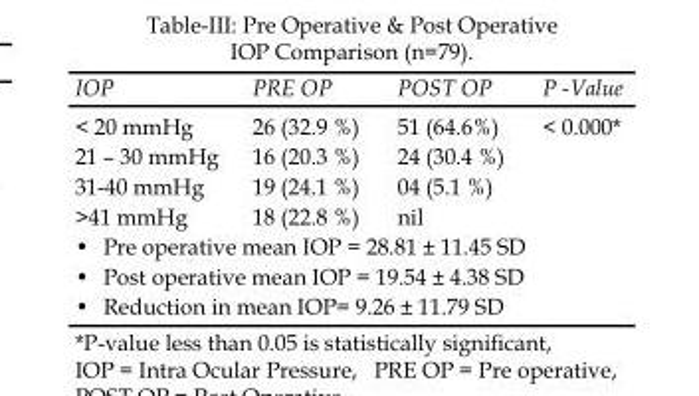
<table><thead><tr><td>IOP</td><td>PRE OP</td><td>POST OP</td><td>P -Value</td></tr></thead><tbody><tr><td>&lt; 20 mmHg</td><td>26 (32.9 %)</td><td>51 (64.6%)</td><td rowspan="4">&lt; 0.000*</td></tr><tr><td>21 – 30 mmHg</td><td>16 (20.3 %)</td><td>24 (30.4 %)</td></tr><tr><td>31-40 mmHg</td><td>19 (24.1 %)</td><td>04 (5.1 %)</td></tr><tr><td>&gt;41 mmHg</td><td>18 (22.8 %)</td><td>nil</td></tr><tr><td colspan="4">• Pre operative mean IOP = 28.81 ± 11.45 SD</td></tr><tr><td colspan="4">• Post operative mean IOP = 19.54 ± 4.38 SD</td></tr><tr><td colspan="3">• Reduction in mean IOP= 9.26 ± 11.79 SD</td><td></td></tr></tbody></table>